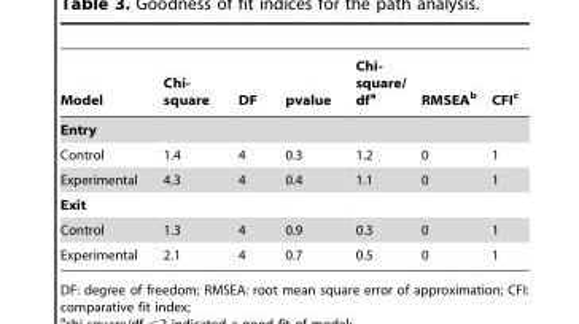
<table><thead><tr><td>Model</td><td>Chi- square</td><td>DF</td><td>pvalue</td><td>Chi- square/ df<sup>a</sup></td><td>RMSEA<sup>b</sup></td><td>CFI<sup>c</sup></td></tr></thead><tbody><tr><td colspan="7">Entry</td></tr><tr><td>Control</td><td>1.4</td><td>4</td><td>0.3</td><td>1.2</td><td>0</td><td>1</td></tr><tr><td>Experimental</td><td>4.3</td><td>4</td><td>0.4</td><td>1.1</td><td>0</td><td>1</td></tr><tr><td colspan="7">Exit</td></tr><tr><td>Control</td><td>1.3</td><td>4</td><td>0.9</td><td>0.3</td><td>0</td><td>1</td></tr><tr><td>Experimental</td><td>2.1</td><td>4</td><td>0.7</td><td>0.5</td><td>0</td><td>1</td></tr></tbody></table>